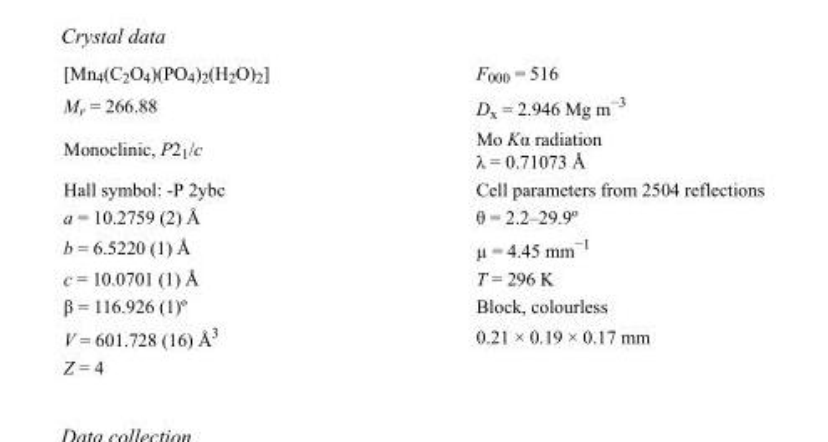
<table><tbody><tr><td>[Mn<sub>4</sub>(C<sub>2</sub>O<sub>4</sub>)(PO<sub>4</sub>)<sub>2</sub>(H<sub>2</sub>O)<sub>2</sub>]</td><td>F000 = 516</td></tr><tr><td>M<sub>r</sub> = 266.88</td><td>D<sub>x</sub> = 2.946 Mg m<sup>−3</sup></td></tr><tr><td>Monoclinic, P2<sub>1</sub>/c</td><td>Mo Kα radiation λ = 0.71073 Å</td></tr><tr><td>Hall symbol: -P 2ybc</td><td>Cell parameters from 2504 reflections</td></tr><tr><td>a = 10.2759 (2) Å</td><td>θ = 2.2–29.9º</td></tr><tr><td>b = 6.5220 (1) Å</td><td>µ = 4.45 mm<sup>−1</sup></td></tr><tr><td>c = 10.0701 (1) Å</td><td>T = 296 K</td></tr><tr><td>β = 116.926 (1)º</td><td>Block, colourless</td></tr><tr><td>V = 601.728 (16) Å3</td><td>0.21 × 0.19 × 0.17 mm</td></tr><tr><td>Z = 4</td><td></td></tr></tbody></table>